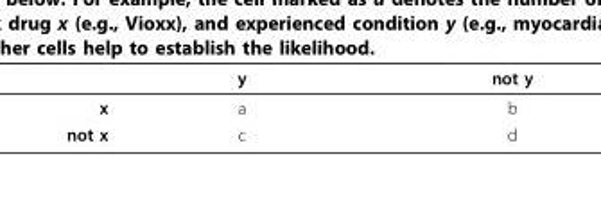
<table><thead><tr><td></td><td>y</td><td>not y</td></tr></thead><tbody><tr><td>x</td><td>a</td><td>b</td></tr><tr><td>not x</td><td>c</td><td>d</td></tr></tbody></table>